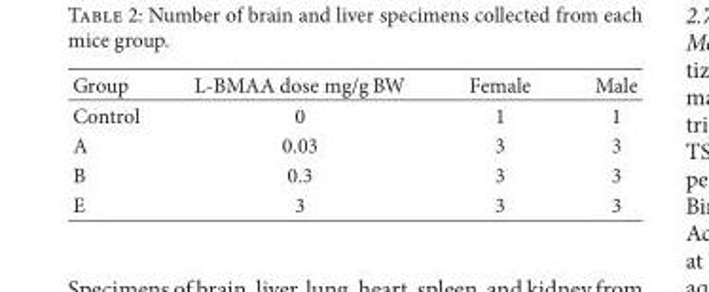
<table><thead><tr><td>Group</td><td>L-BMAA dose mg/g BW</td><td>Female</td><td>Male</td></tr></thead><tbody><tr><td>Control</td><td>0</td><td>1</td><td>1</td></tr><tr><td>A</td><td>0.03</td><td>3</td><td>3</td></tr><tr><td>B</td><td>0.3</td><td>3</td><td>3</td></tr><tr><td>E</td><td>3</td><td>3</td><td>3</td></tr></tbody></table>